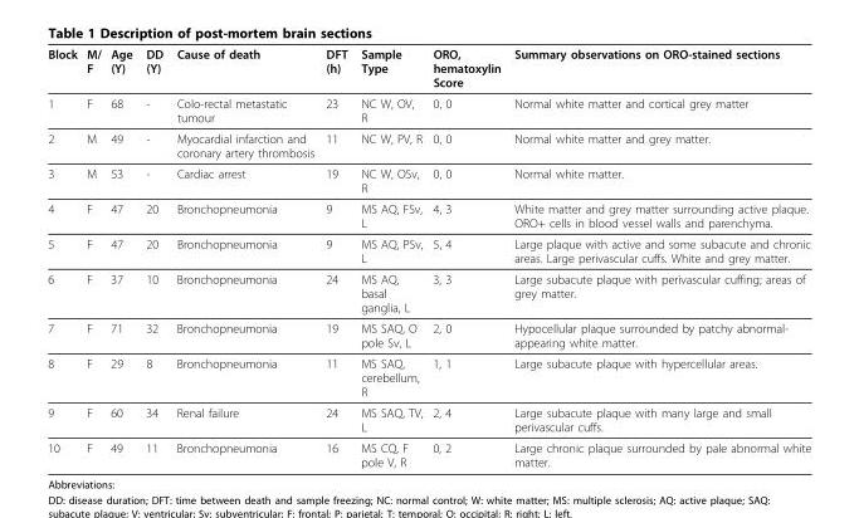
<table><thead><tr><td>Block</td><td>M/ F</td><td>Age (Y)</td><td>DD (Y)</td><td>Cause of death</td><td>DFT (h)</td><td>Sample Type</td><td>ORO, hematoxylin Score</td><td>Summary observations on ORO-stained sections</td></tr></thead><tbody><tr><td>1</td><td>F</td><td>68</td><td>-</td><td>Colo-rectal metastatic tumour</td><td>23</td><td>NC W, OV, R</td><td>0, 0</td><td>Normal white matter and cortical grey matter</td></tr><tr><td>2</td><td>M</td><td>49</td><td>-</td><td>Myocardial infarction and coronary artery thrombosis</td><td>11</td><td>NC W, PV, R</td><td>0, 0</td><td>Normal white matter and grey matter.</td></tr><tr><td>3</td><td>M</td><td>53</td><td>-</td><td>Cardiac arrest</td><td>19</td><td>NC W, OSv, R</td><td>0, 0</td><td>Normal white matter.</td></tr><tr><td>4</td><td>F</td><td>47</td><td>20</td><td>Bronchopneumonia</td><td>9</td><td>MS AQ, FSv, L</td><td>4, 3</td><td>White matter and grey matter surrounding active plaque. ORO+ cells in blood vessel walls and parenchyma.</td></tr><tr><td>5</td><td>F</td><td>47</td><td>20</td><td>Bronchopneumonia</td><td>9</td><td>MS AQ, PSv, L</td><td>5, 4</td><td>Large plaque with active and some subacute and chronic areas. Large perivascular cuffs. White and grey matter.</td></tr><tr><td>6</td><td>F</td><td>37</td><td>10</td><td>Bronchopneumonia</td><td>24</td><td>MS AQ, basal ganglia, L</td><td>3, 3</td><td>Large subacute plaque with perivascular cuffing; areas of grey matter.</td></tr><tr><td>7</td><td>F</td><td>71</td><td>32</td><td>Bronchopneumonia</td><td>19</td><td>MS SAQ, O pole Sv, L</td><td>2, 0</td><td>Hypocellular plaque surrounded by patchy abnormal- appearing white matter.</td></tr><tr><td>8</td><td>F</td><td>29</td><td>8</td><td>Bronchopneumonia</td><td>11</td><td>MS SAQ, cerebellum, R</td><td>1, 1</td><td>Large subacute plaque with hypercellular areas.</td></tr><tr><td>9</td><td>F</td><td>60</td><td>34</td><td>Renal failure</td><td>24</td><td>MS SAQ, TV, L</td><td>2, 4</td><td>Large subacute plaque with many large and small perivascular cuffs.</td></tr><tr><td>10</td><td>F</td><td>49</td><td>11</td><td>Bronchopneumonia</td><td>16</td><td>MS CQ, F pole V, R</td><td>0, 2</td><td>Large chronic plaque surrounded by pale abnormal white matter.</td></tr></tbody></table>